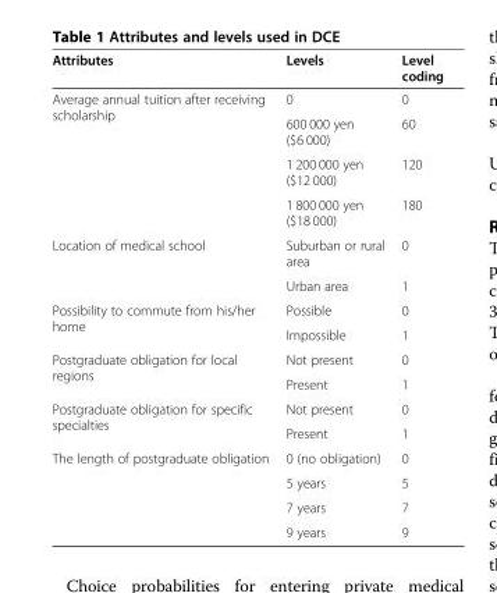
<table><thead><tr><td>Attributes</td><td>Levels</td><td>Level coding</td></tr></thead><tbody><tr><td rowspan="4">Average annual tuition after receiving scholarship</td><td>0</td><td>0</td></tr><tr><td>600 000 yen ($6 000)</td><td>60</td></tr><tr><td>1 200 000 yen ($12 000)</td><td>120</td></tr><tr><td>1 800 000 yen ($18 000)</td><td>180</td></tr><tr><td rowspan="2">Location of medical school</td><td>Suburban or rural area</td><td>0</td></tr><tr><td>Urban area</td><td>1</td></tr><tr><td rowspan="2">Possibility to commute from his/her home</td><td>Possible</td><td>0</td></tr><tr><td>Impossible</td><td>1</td></tr><tr><td rowspan="2">Postgraduate obligation for local regions</td><td>Not present</td><td>0</td></tr><tr><td>Present</td><td>1</td></tr><tr><td rowspan="2">Postgraduate obligation for specific specialties</td><td>Not present</td><td>0</td></tr><tr><td>Present</td><td>1</td></tr><tr><td rowspan="4">The length of postgraduate obligation</td><td>0 (no obligation)</td><td>0</td></tr><tr><td>5 years</td><td>5</td></tr><tr><td>7 years</td><td>7</td></tr><tr><td>9 years</td><td>9</td></tr></tbody></table>